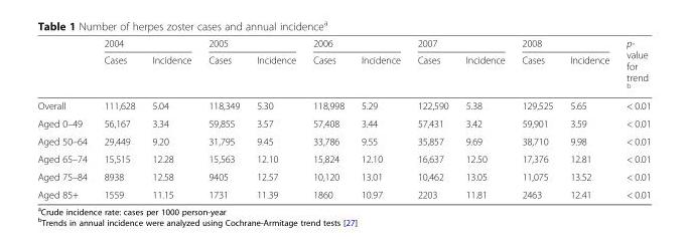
<table><thead><tr><td rowspan="2"></td><td colspan="2">2004</td><td colspan="2">2005</td><td colspan="2">2006</td><td colspan="2">2007</td><td colspan="2">2008</td><td rowspan="2">p- value for trend <sup>b</sup></td></tr><tr><td>Cases</td><td>Incidence</td><td>Cases</td><td>Incidence</td><td>Cases</td><td>Incidence</td><td>Cases</td><td>Incidence</td><td>Cases</td><td>Incidence</td></tr></thead><tbody><tr><td>Overall</td><td>111,628</td><td>5.04</td><td>118,349</td><td>5.30</td><td>118,998</td><td>5.29</td><td>122,590</td><td>5.38</td><td>129,525</td><td>5.65</td><td>&lt; 0.01</td></tr><tr><td>Aged 0–49</td><td>56,167</td><td>3.34</td><td>59,855</td><td>3.57</td><td>57,408</td><td>3.44</td><td>57,431</td><td>3.42</td><td>59,901</td><td>3.59</td><td>&lt; 0.01</td></tr><tr><td>Aged 50–64</td><td>29,449</td><td>9.20</td><td>31,795</td><td>9.45</td><td>33,786</td><td>9.55</td><td>35,857</td><td>9.69</td><td>38,710</td><td>9.98</td><td>&lt; 0.01</td></tr><tr><td>Aged 65–74</td><td>15,515</td><td>12.28</td><td>15,563</td><td>12.10</td><td>15,824</td><td>12.10</td><td>16,637</td><td>12.50</td><td>17,376</td><td>12.81</td><td>&lt; 0.01</td></tr><tr><td>Aged 75–84</td><td>8938</td><td>12.58</td><td>9405</td><td>12.57</td><td>10,120</td><td>13.01</td><td>10,462</td><td>13.05</td><td>11,075</td><td>13.52</td><td>&lt; 0.01</td></tr><tr><td>Aged 85+</td><td>1559</td><td>11.15</td><td>1731</td><td>11.39</td><td>1860</td><td>10.97</td><td>2203</td><td>11.81</td><td>2463</td><td>12.41</td><td>&lt; 0.01</td></tr></tbody></table>